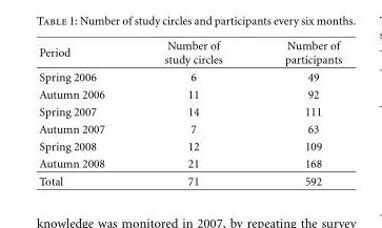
<table><thead><tr><td>Period</td><td>Number of study circles</td><td>Number of participants</td></tr></thead><tbody><tr><td>Spring 2006</td><td>6</td><td>49</td></tr><tr><td>Autumn 2006</td><td>11</td><td>92</td></tr><tr><td>Spring 2007</td><td>14</td><td>111</td></tr><tr><td>Autumn 2007</td><td>7</td><td>63</td></tr><tr><td>Spring 2008</td><td>12</td><td>109</td></tr><tr><td>Autumn 2008</td><td>21</td><td>168</td></tr><tr><td>Total</td><td>71</td><td>592</td></tr></tbody></table>